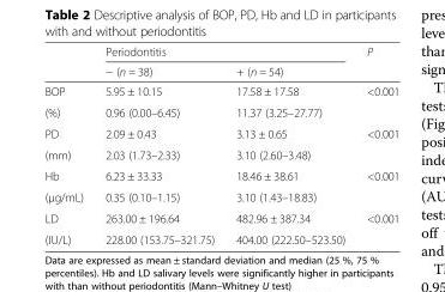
<table><thead><tr><td rowspan="2"></td><td colspan="2">Periodontitis</td><td rowspan="2">P</td></tr><tr><td>− (n = 38)</td><td>+ (n = 54)</td></tr></thead><tbody><tr><td>BOP</td><td>5.95 ± 10.15</td><td>17.58 ± 17.58</td><td rowspan="2">&lt;0.001</td></tr><tr><td>(%)</td><td>0.96 (0.00–6.45)</td><td>11.37 (3.25–27.77)</td></tr><tr><td>PD</td><td>2.09 ± 0.43</td><td>3.13 ± 0.65</td><td rowspan="2">&lt;0.001</td></tr><tr><td>(mm)</td><td>2.03 (1.73–2.33)</td><td>3.10 (2.60–3.48)</td></tr><tr><td>Hb</td><td>6.23 ± 33.33</td><td>18.46 ± 38.61</td><td rowspan="2">&lt;0.001</td></tr><tr><td>(μg/mL)</td><td>0.35 (0.10–1.15)</td><td>3.10 (1.43–18.83)</td></tr><tr><td>LD</td><td>263.00 ± 196.64</td><td>482.96 ± 387.34</td><td rowspan="2">&lt;0.001</td></tr><tr><td>(IU/L)</td><td>228.00 (153.75–321.75)</td><td>404.00 (222.50–523.50)</td></tr></tbody></table>